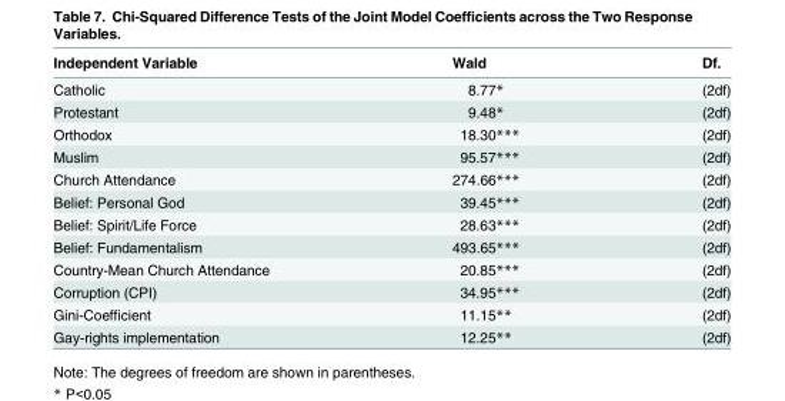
<table><thead><tr><td>Independent Variable</td><td>Wald</td><td>Df.</td></tr></thead><tbody><tr><td>Catholic</td><td>8.77*</td><td>(2df)</td></tr><tr><td>Protestant</td><td>9.48*</td><td>(2df)</td></tr><tr><td>Orthodox</td><td>18.30***</td><td>(2df)</td></tr><tr><td>Muslim</td><td>95.57***</td><td>(2df)</td></tr><tr><td>Church Attendance</td><td>274.66***</td><td>(2df)</td></tr><tr><td>Belief: Personal God</td><td>39.45***</td><td>(2df)</td></tr><tr><td>Belief: Spirit/Life Force</td><td>28.63***</td><td>(2df)</td></tr><tr><td>Belief: Fundamentalism</td><td>493.65***</td><td>(2df)</td></tr><tr><td>Country-Mean Church Attendance</td><td>20.85***</td><td>(2df)</td></tr><tr><td>Corruption (CPI)</td><td>34.95***</td><td>(2df)</td></tr><tr><td>Gini-Coefficient</td><td>11.15**</td><td>(2df)</td></tr><tr><td>Gay-rights implementation</td><td>12.25**</td><td>(2df)</td></tr></tbody></table>